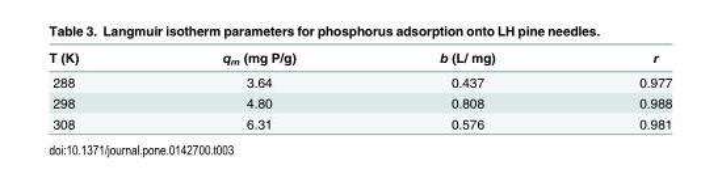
<table><thead><tr><td>T (K)</td><td>q<sub>m</sub> (mg P/g)</td><td>b (L/ mg)</td><td>r</td></tr></thead><tbody><tr><td>288</td><td>3.64</td><td>0.437</td><td>0.977</td></tr><tr><td>298</td><td>4.80</td><td>0.808</td><td>0.988</td></tr><tr><td>308</td><td>6.31</td><td>0.576</td><td>0.981</td></tr></tbody></table>